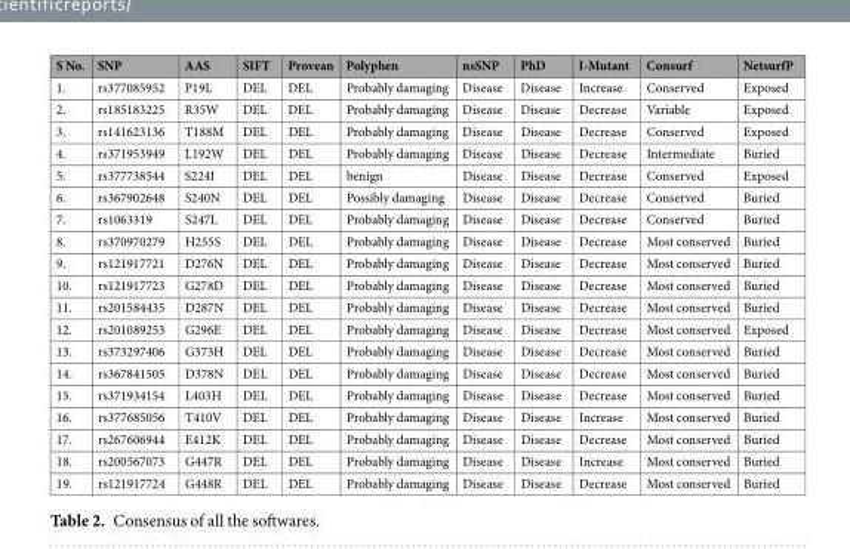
<table><thead><tr><td>S No.</td><td>SNP</td><td>AAS</td><td>SIFT</td><td>Provean</td><td>Polyphen</td><td>nsSNP</td><td>PhD</td><td>I-Mutant</td><td>Consurf</td><td>NetsurfP</td></tr></thead><tbody><tr><td>1.</td><td>rs377085952</td><td>P19L</td><td>DEL</td><td>DEL</td><td>Probably damaging</td><td>Disease</td><td>Disease</td><td>Increase</td><td>Conserved</td><td>Exposed</td></tr><tr><td>2.</td><td>rs185183225</td><td>R35W</td><td>DEL</td><td>DEL</td><td>Probably damaging</td><td>Disease</td><td>Disease</td><td>Decrease</td><td>Variable</td><td>Exposed</td></tr><tr><td>3.</td><td>rs141623136</td><td>T188M</td><td>DEL</td><td>DEL</td><td>Probably damaging</td><td>Disease</td><td>Disease</td><td>Decrease</td><td>Conserved</td><td>Exposed</td></tr><tr><td>4.</td><td>rs371953949</td><td>L192W</td><td>DEL</td><td>DEL</td><td>Probably damaging</td><td>Disease</td><td>Disease</td><td>Decrease</td><td>Intermediate</td><td>Buried</td></tr><tr><td>5.</td><td>rs377738544</td><td>S224I</td><td>DEL</td><td>DEL</td><td>benign</td><td>Disease</td><td>Disease</td><td>Decrease</td><td>Conserved</td><td>Exposed</td></tr><tr><td>6.</td><td>rs367902648</td><td>S240N</td><td>DEL</td><td>DEL</td><td>Possibly damaging</td><td>Disease</td><td>Disease</td><td>Decrease</td><td>Conserved</td><td>Buried</td></tr><tr><td>7.</td><td>rs1063319</td><td>S247L</td><td>DEL</td><td>DEL</td><td>Probably damaging</td><td>Disease</td><td>Disease</td><td>Decrease</td><td>Conserved</td><td>Buried</td></tr><tr><td>8.</td><td>rs370970279</td><td>H255S</td><td>DEL</td><td>DEL</td><td>Probably damaging</td><td>Disease</td><td>Disease</td><td>Decrease</td><td>Most conserved</td><td>Buried</td></tr><tr><td>9.</td><td>rs121917721</td><td>D276N</td><td>DEL</td><td>DEL</td><td>Probably damaging</td><td>Disease</td><td>Disease</td><td>Decrease</td><td>Most conserved</td><td>Buried</td></tr><tr><td>10.</td><td>rs121917723</td><td>G278D</td><td>DEL</td><td>DEL</td><td>Probably damaging</td><td>Disease</td><td>Disease</td><td>Decrease</td><td>Most conserved</td><td>Buried</td></tr><tr><td>11.</td><td>rs201584435</td><td>D287N</td><td>DEL</td><td>DEL</td><td>Probably damaging</td><td>Disease</td><td>Disease</td><td>Decrease</td><td>Most conserved</td><td>Buried</td></tr><tr><td>12.</td><td>rs201089253</td><td>G296E</td><td>DEL</td><td>DEL</td><td>Probably damaging</td><td>Disease</td><td>Disease</td><td>Decrease</td><td>Most conserved</td><td>Exposed</td></tr><tr><td>13.</td><td>rs373297406</td><td>G373H</td><td>DEL</td><td>DEL</td><td>Probably damaging</td><td>Disease</td><td>Disease</td><td>Decrease</td><td>Most conserved</td><td>Buried</td></tr><tr><td>14.</td><td>rs367841505</td><td>D378N</td><td>DEL</td><td>DEL</td><td>Probably damaging</td><td>Disease</td><td>Disease</td><td>Decrease</td><td>Most conserved</td><td>Buried</td></tr><tr><td>15.</td><td>rs371934154</td><td>L403H</td><td>DEL</td><td>DEL</td><td>Probably damaging</td><td>Disease</td><td>Disease</td><td>Decrease</td><td>Most conserved</td><td>Buried</td></tr><tr><td>16.</td><td>rs377685056</td><td>T410V</td><td>DEL</td><td>DEL</td><td>Probably damaging</td><td>Disease</td><td>Disease</td><td>Increase</td><td>Most conserved</td><td>Buried</td></tr><tr><td>17.</td><td>rs267606944</td><td>E412K</td><td>DEL</td><td>DEL</td><td>Probably damaging</td><td>Disease</td><td>Disease</td><td>Decrease</td><td>Most conserved</td><td>Buried</td></tr><tr><td>18.</td><td>rs200567073</td><td>G447R</td><td>DEL</td><td>DEL</td><td>Probably damaging</td><td>Disease</td><td>Disease</td><td>Increase</td><td>Most conserved</td><td>Buried</td></tr><tr><td>19.</td><td>rs121917724</td><td>G448R</td><td>DEL</td><td>DEL</td><td>Probably damaging</td><td>Disease</td><td>Disease</td><td>Decrease</td><td>Most conserved</td><td>Buried</td></tr></tbody></table>